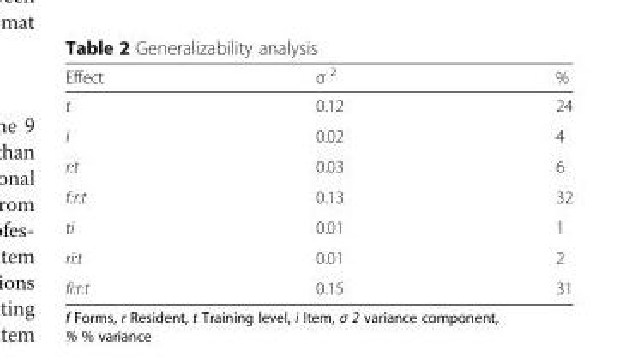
<table><thead><tr><td>Effect</td><td>σ <sup>2</sup></td><td>%</td></tr></thead><tbody><tr><td>t</td><td>0.12</td><td>24</td></tr><tr><td>i</td><td>0.02</td><td>4</td></tr><tr><td>r:t</td><td>0.03</td><td>6</td></tr><tr><td>f:r:t</td><td>0.13</td><td>32</td></tr><tr><td>ti</td><td>0.01</td><td>1</td></tr><tr><td>ri:t</td><td>0.01</td><td>2</td></tr><tr><td>fi:r:t</td><td>0.15</td><td>31</td></tr></tbody></table>